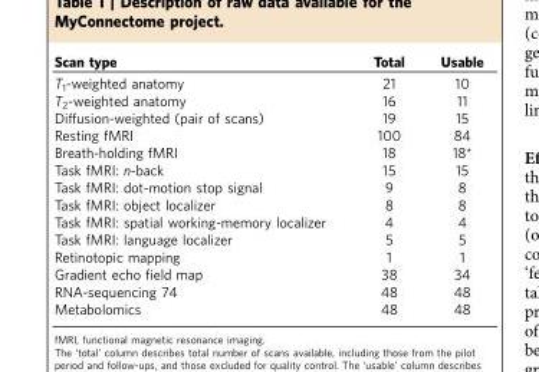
<table><thead><tr><td>Scan type</td><td>Total</td><td>Usable</td></tr></thead><tbody><tr><td>T<sub>1</sub>-weighted anatomy</td><td>21</td><td>10</td></tr><tr><td>T<sub>2</sub>-weighted anatomy</td><td>16</td><td>11</td></tr><tr><td>Diffusion-weighted (pair of scans)</td><td>19</td><td>15</td></tr><tr><td>Resting fMRI</td><td>100</td><td>84</td></tr><tr><td>Breath-holding fMRI</td><td>18</td><td>18*</td></tr><tr><td>Task fMRI: n-back</td><td>15</td><td>15</td></tr><tr><td>Task fMRI: dot-motion stop signal</td><td>9</td><td>8</td></tr><tr><td>Task fMRI: object localizer</td><td>8</td><td>8</td></tr><tr><td>Task fMRI: spatial working-memory localizer</td><td>4</td><td>4</td></tr><tr><td>Task fMRI: language localizer</td><td>5</td><td>5</td></tr><tr><td>Retinotopic mapping</td><td>1</td><td>1</td></tr><tr><td>Gradient echo field map</td><td>38</td><td>34</td></tr><tr><td>RNA-sequencing 74</td><td>48</td><td>48</td></tr><tr><td>Metabolomics</td><td>48</td><td>48</td></tr></tbody></table>